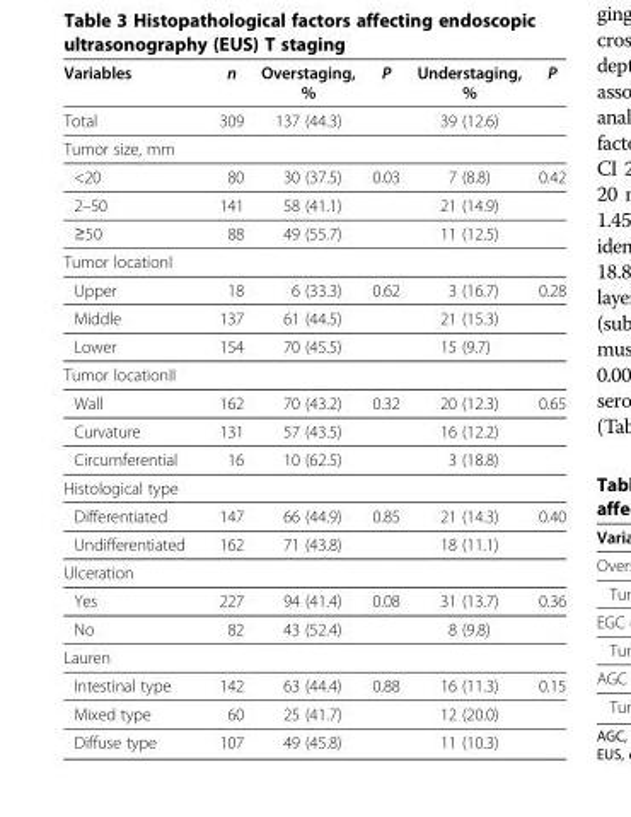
<table><thead><tr><td>Variables</td><td>n</td><td>Overstaging, %</td><td>P</td><td>Understaging, %</td><td>P</td></tr></thead><tbody><tr><td>Total</td><td>309</td><td>137 (44.3)</td><td></td><td>39 (12.6)</td><td></td></tr><tr><td colspan="6">Tumor size, mm</td></tr><tr><td>&lt;20</td><td>80</td><td>30 (37.5)</td><td>0.03</td><td>7 (8.8)</td><td>0.42</td></tr><tr><td>2–50</td><td>141</td><td>58 (41.1)</td><td></td><td>21 (14.9)</td><td></td></tr><tr><td>≥50</td><td>88</td><td>49 (55.7)</td><td></td><td>11 (12.5)</td><td></td></tr><tr><td colspan="6">Tumor locationI</td></tr><tr><td>Upper</td><td>18</td><td>6 (33.3)</td><td>0.62</td><td>3 (16.7)</td><td>0.28</td></tr><tr><td>Middle</td><td>137</td><td>61 (44.5)</td><td></td><td>21 (15.3)</td><td></td></tr><tr><td>Lower</td><td>154</td><td>70 (45.5)</td><td></td><td>15 (9.7)</td><td></td></tr><tr><td colspan="6">Tumor locationII</td></tr><tr><td>Wall</td><td>162</td><td>70 (43.2)</td><td>0.32</td><td>20 (12.3)</td><td>0.65</td></tr><tr><td>Curvature</td><td>131</td><td>57 (43.5)</td><td></td><td>16 (12.2)</td><td></td></tr><tr><td>Circumferential</td><td>16</td><td>10 (62.5)</td><td></td><td>3 (18.8)</td><td></td></tr><tr><td colspan="6">Histological type</td></tr><tr><td>Differentiated</td><td>147</td><td>66 (44.9)</td><td>0.85</td><td>21 (14.3)</td><td>0.40</td></tr><tr><td>Undifferentiated</td><td>162</td><td>71 (43.8)</td><td></td><td>18 (11.1)</td><td></td></tr><tr><td colspan="6">Ulceration</td></tr><tr><td>Yes</td><td>227</td><td>94 (41.4)</td><td>0.08</td><td>31 (13.7)</td><td>0.36</td></tr><tr><td>No</td><td>82</td><td>43 (52.4)</td><td></td><td>8 (9.8)</td><td></td></tr><tr><td colspan="6">Lauren</td></tr><tr><td>Intestinal type</td><td>142</td><td>63 (44.4)</td><td>0.88</td><td>16 (11.3)</td><td>0.15</td></tr><tr><td>Mixed type</td><td>60</td><td>25 (41.7)</td><td></td><td>12 (20.0)</td><td></td></tr><tr><td>Diffuse type</td><td>107</td><td>49 (45.8)</td><td></td><td>11 (10.3)</td><td></td></tr></tbody></table>